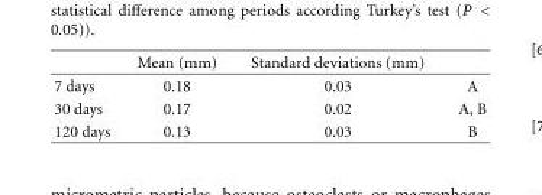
<table><thead><tr><td></td><td>Mean (mm)</td><td>Standard deviations (mm)</td><td></td></tr></thead><tbody><tr><td>7 days</td><td>0.18</td><td>0.03</td><td>A</td></tr><tr><td>30 days</td><td>0.17</td><td>0.02</td><td>A, B</td></tr><tr><td>120 days</td><td>0.13</td><td>0.03</td><td>B</td></tr></tbody></table>